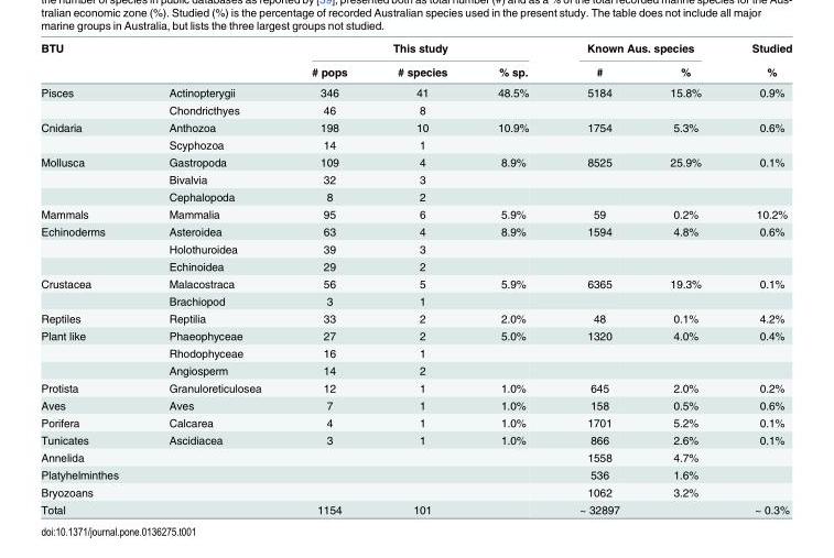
<table><thead><tr><td rowspan="2">BTU</td><td rowspan="2"></td><td colspan="3">This study</td><td colspan="2">Known Aus. species</td><td rowspan="2">Studied %</td></tr><tr><td># pops</td><td># species</td><td>% sp.</td><td>#</td><td>%</td></tr></thead><tbody><tr><td rowspan="2">Pisces</td><td>Actinopterygii</td><td>346</td><td>41</td><td>48.5%</td><td>5184</td><td>15.8%</td><td>0.9%</td></tr><tr><td>Chondricthyes</td><td>46</td><td>8</td><td></td><td></td><td></td><td></td></tr><tr><td rowspan="2">Cnidaria</td><td>Anthozoa</td><td>198</td><td>10</td><td>10.9%</td><td>1754</td><td>5.3%</td><td>0.6%</td></tr><tr><td>Scyphozoa</td><td>14</td><td>1</td><td></td><td></td><td></td><td></td></tr><tr><td rowspan="3">Mollusca</td><td>Gastropoda</td><td>109</td><td>4</td><td>8.9%</td><td>8525</td><td>25.9%</td><td>0.1%</td></tr><tr><td>Bivalvia</td><td>32</td><td>3</td><td></td><td></td><td></td><td></td></tr><tr><td>Cephalopoda</td><td>8</td><td>2</td><td></td><td></td><td></td><td></td></tr><tr><td>Mammals</td><td>Mammalia</td><td>95</td><td>6</td><td>5.9%</td><td>59</td><td>0.2%</td><td>10.2%</td></tr><tr><td rowspan="3">Echinoderms</td><td>Asteroidea</td><td>63</td><td>4</td><td>8.9%</td><td>1594</td><td>4.8%</td><td>0.6%</td></tr><tr><td>Holothuroidea</td><td>39</td><td>3</td><td></td><td></td><td></td><td></td></tr><tr><td>Echinoidea</td><td>29</td><td>2</td><td></td><td></td><td></td><td></td></tr><tr><td rowspan="2">Crustacea</td><td>Malacostraca</td><td>56</td><td>5</td><td>5.9%</td><td>6365</td><td>19.3%</td><td>0.1%</td></tr><tr><td>Brachiopod</td><td>3</td><td>1</td><td></td><td></td><td></td><td></td></tr><tr><td>Reptiles</td><td>Reptilia</td><td>33</td><td>2</td><td>2.0%</td><td>48</td><td>0.1%</td><td>4.2%</td></tr><tr><td rowspan="3">Plant like</td><td>Phaeophyceae</td><td>27</td><td>2</td><td>5.0%</td><td>1320</td><td>4.0%</td><td>0.4%</td></tr><tr><td>Rhodophyceae</td><td>16</td><td>1</td><td></td><td></td><td></td><td></td></tr><tr><td>Angiosperm</td><td>14</td><td>2</td><td></td><td></td><td></td><td></td></tr><tr><td>Protista</td><td>Granuloreticulosea</td><td>12</td><td>1</td><td>1.0%</td><td>645</td><td>2.0%</td><td>0.2%</td></tr><tr><td>Aves</td><td>Aves</td><td>7</td><td>1</td><td>1.0%</td><td>158</td><td>0.5%</td><td>0.6%</td></tr><tr><td>Porifera</td><td>Calcarea</td><td>4</td><td>1</td><td>1.0%</td><td>1701</td><td>5.2%</td><td>0.1%</td></tr><tr><td>Tunicates</td><td>Ascidiacea</td><td>3</td><td>1</td><td>1.0%</td><td>866</td><td>2.6%</td><td>0.1%</td></tr><tr><td>Annelida</td><td></td><td></td><td></td><td></td><td>1558</td><td>4.7%</td><td></td></tr><tr><td>Platyhelminthes</td><td></td><td></td><td></td><td></td><td>536</td><td>1.6%</td><td></td></tr><tr><td>Bryozoans</td><td></td><td></td><td></td><td></td><td>1062</td><td>3.2%</td><td></td></tr><tr><td>Total</td><td></td><td>1154</td><td>101</td><td></td><td>~ 32897</td><td></td><td>~ 0.3%</td></tr></tbody></table>